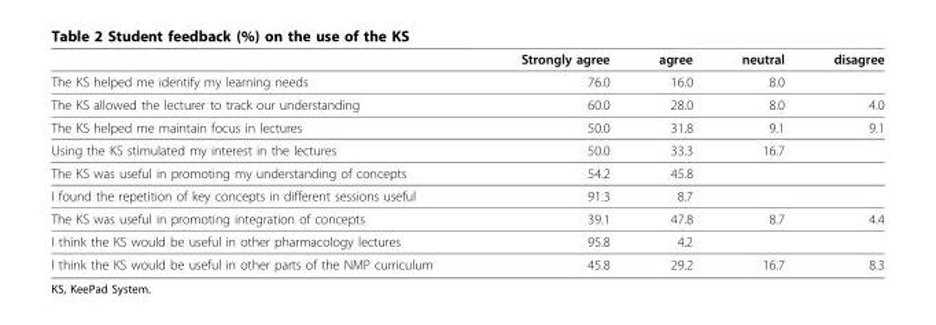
<table><thead><tr><td></td><td>Strongly agree</td><td>agree</td><td>neutral</td><td>disagree</td></tr></thead><tbody><tr><td>The KS helped me identify my learning needs</td><td>76.0</td><td>16.0</td><td>8.0</td><td></td></tr><tr><td>The KS allowed the lecturer to track our understanding</td><td>60.0</td><td>28.0</td><td>8.0</td><td>4.0</td></tr><tr><td>The KS helped me maintain focus in lectures</td><td>50.0</td><td>31.8</td><td>9.1</td><td>9.1</td></tr><tr><td>Using the KS stimulated my interest in the lectures</td><td>50.0</td><td>33.3</td><td>16.7</td><td></td></tr><tr><td>The KS was useful in promoting my understanding of concepts</td><td>54.2</td><td>45.8</td><td></td><td></td></tr><tr><td>I found the repetition of key concepts in different sessions useful</td><td>91.3</td><td>8.7</td><td></td><td></td></tr><tr><td>The KS was useful in promoting integration of concepts</td><td>39.1</td><td>47.8</td><td>8.7</td><td>4.4</td></tr><tr><td>I think the KS would be useful in other pharmacology lectures</td><td>95.8</td><td>4.2</td><td></td><td></td></tr><tr><td>I think the KS would be useful in other parts of the NMP curriculum</td><td>45.8</td><td>29.2</td><td>16.7</td><td>8.3</td></tr></tbody></table>